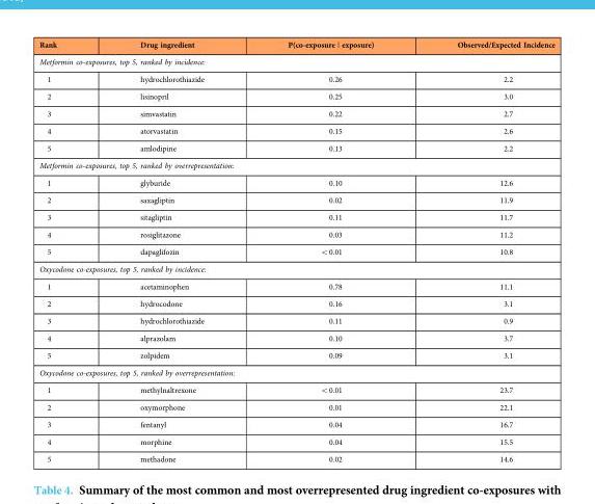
<table><thead><tr><td>Rank</td><td>Drug ingredient</td><td>P(co-exposure | exposure)</td><td>Observed/Expected Incidence</td></tr></thead><tbody><tr><td colspan="4">Metformin co-exposures, top 5, ranked by incidence:</td></tr><tr><td>1</td><td>hydrochlorothiazide</td><td>0.26</td><td>2.2</td></tr><tr><td>2</td><td>lisinopril</td><td>0.25</td><td>3.0</td></tr><tr><td>3</td><td>simvastatin</td><td>0.22</td><td>2.7</td></tr><tr><td>4</td><td>atorvastatin</td><td>0.15</td><td>2.6</td></tr><tr><td>5</td><td>amlodipine</td><td>0.13</td><td>2.2</td></tr><tr><td colspan="4">Metformin co-exposures, top 5, ranked by overrepresentation:</td></tr><tr><td>1</td><td>glyburide</td><td>0.10</td><td>12.6</td></tr><tr><td>2</td><td>saxagliptin</td><td>0.02</td><td>11.9</td></tr><tr><td>3</td><td>sitagliptin</td><td>0.11</td><td>11.7</td></tr><tr><td>4</td><td>rosiglitazone</td><td>0.03</td><td>11.2</td></tr><tr><td>5</td><td>dapaglifozin</td><td>&lt;0.01</td><td>10.8</td></tr><tr><td colspan="4">Oxycodone co-exposures, top 5, ranked by incidence:</td></tr><tr><td>1</td><td>acetaminophen</td><td>0.78</td><td>11.1</td></tr><tr><td>2</td><td>hydrocodone</td><td>0.16</td><td>3.1</td></tr><tr><td>3</td><td>hydrochlorothiazide</td><td>0.11</td><td>0.9</td></tr><tr><td>4</td><td>alprazolam</td><td>0.10</td><td>3.7</td></tr><tr><td>5</td><td>zolpidem</td><td>0.09</td><td>3.1</td></tr><tr><td colspan="4">Oxycodone co-exposures, top 5, ranked by overrepresentation:</td></tr><tr><td>1</td><td>methylnaltrexone</td><td>&lt;0.01</td><td>23.7</td></tr><tr><td>2</td><td>oxymorphone</td><td>0.01</td><td>22.1</td></tr><tr><td>3</td><td>fentanyl</td><td>0.04</td><td>16.7</td></tr><tr><td>4</td><td>morphine</td><td>0.04</td><td>15.5</td></tr><tr><td>5</td><td>methadone</td><td>0.02</td><td>14.6</td></tr></tbody></table>